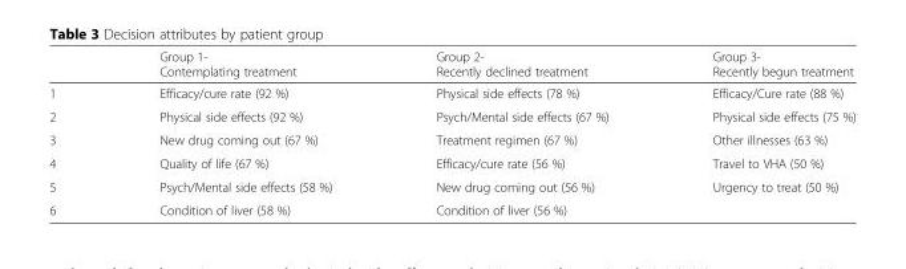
<table><thead><tr><td></td><td>Group 1- Contemplating treatment</td><td>Group 2- Recently declined treatment</td><td>Group 3- Recently begun treatment</td></tr></thead><tbody><tr><td>1</td><td>Efficacy/cure rate (92 %)</td><td>Physical side effects (78 %)</td><td>Efficacy/Cure rate (88 %)</td></tr><tr><td>2</td><td>Physical side effects (92 %)</td><td>Psych/Mental side effects (67 %)</td><td>Physical side effects (75 %)</td></tr><tr><td>3</td><td>New drug coming out (67 %)</td><td>Treatment regimen (67 %)</td><td>Other illnesses (63 %)</td></tr><tr><td>4</td><td>Quality of life (67 %)</td><td>Efficacy/cure rate (56 %)</td><td>Travel to VHA (50 %)</td></tr><tr><td>5</td><td>Psych/Mental side effects (58 %)</td><td>New drug coming out (56 %)</td><td>Urgency to treat (50 %)</td></tr><tr><td>6</td><td>Condition of liver (58 %)</td><td>Condition of liver (56 %)</td><td></td></tr></tbody></table>